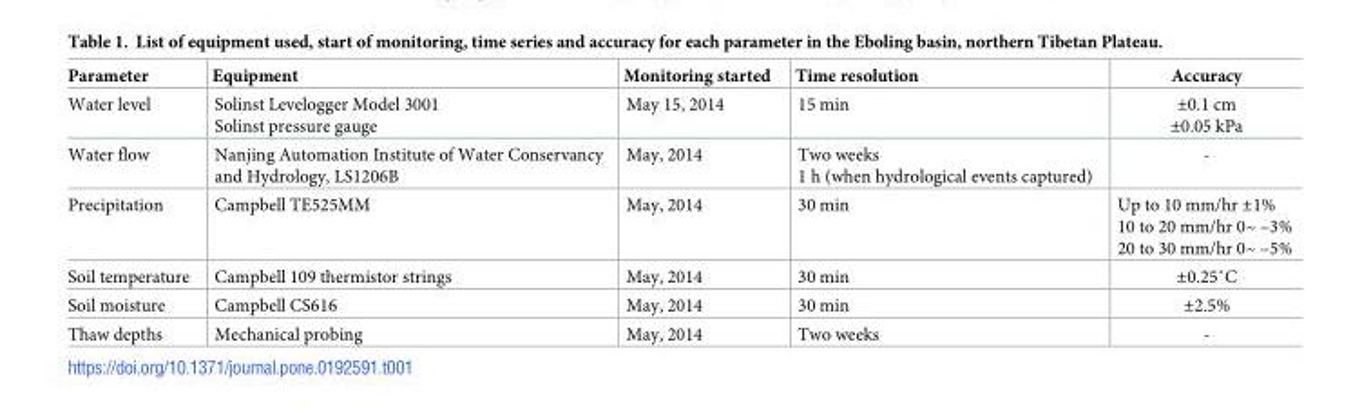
<table><thead><tr><td>Parameter</td><td>Equipment</td><td>Monitoring started</td><td>Time resolution</td><td>Accuracy</td></tr></thead><tbody><tr><td>Water level</td><td>Solinst Levelogger Model 3001 Solinst pressure gauge</td><td>May 15, 2014</td><td>15 min</td><td>±0.1 cm ±0.05 kPa</td></tr><tr><td>Water flow</td><td>Nanjing Automation Institute of Water Conservancy and Hydrology, LS1206B</td><td>May, 2014</td><td>Two weeks 1 h (when hydrological events captured)</td><td>-</td></tr><tr><td>Precipitation</td><td>Campbell TE525MM</td><td>May, 2014</td><td>30 min</td><td>Up to 10 mm/hr ±1% 10 to 20 mm/hr 0~ –3% 20 to 30 mm/hr 0~ –5%</td></tr><tr><td>Soil temperature</td><td>Campbell 109 thermistor strings</td><td>May, 2014</td><td>30 min</td><td>±0.25˚C</td></tr><tr><td>Soil moisture</td><td>Campbell CS616</td><td>May, 2014</td><td>30 min</td><td>±2.5%</td></tr><tr><td>Thaw depths</td><td>Mechanical probing</td><td>May, 2014</td><td>Two weeks</td><td>-</td></tr></tbody></table>